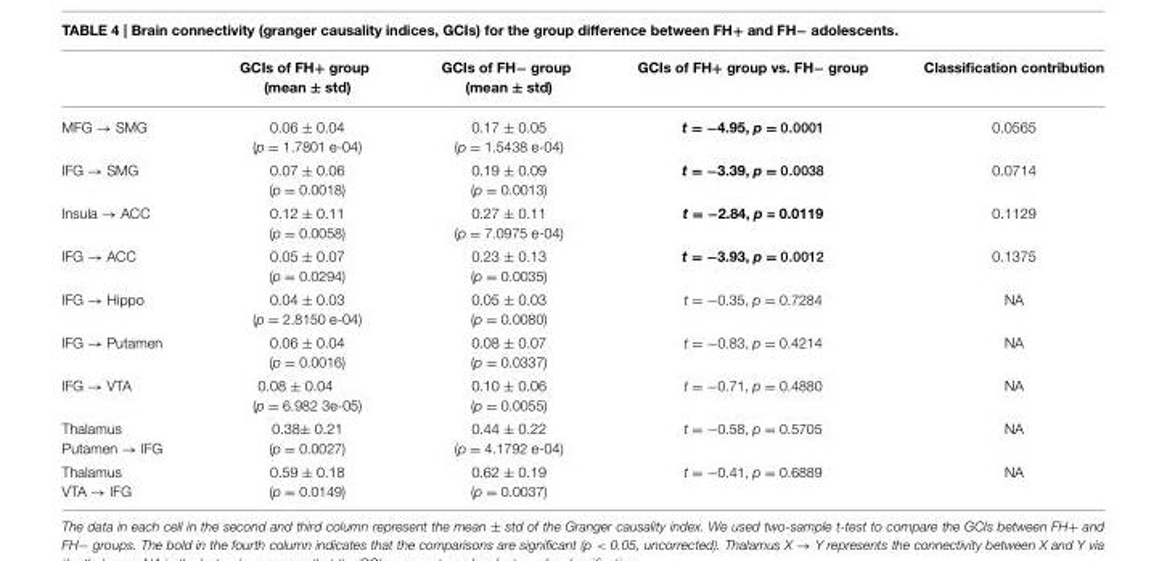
<table><thead><tr><td></td><td>GCIs of FH+ group (mean ± std)</td><td>GCIs of FH− group (mean ± std)</td><td>GCIs of FH+ group vs. FH− group</td><td>Classification contribution</td></tr></thead><tbody><tr><td>MFG → SMG</td><td>0.06 ± 0.04 (p = 1.7801 e-04)</td><td>0.17 ± 0.05 (p = 1.5438 e-04)</td><td>t = −4.95, p = 0.0001</td><td>0.0565</td></tr><tr><td>IFG → SMG</td><td>0.07 ± 0.06 (p = 0.0018)</td><td>0.19 ± 0.09 (p = 0.0013)</td><td>t = −3.39, p = 0.0038</td><td>0.0714</td></tr><tr><td>Insula → ACC</td><td>0.12 ± 0.11 (p = 0.0058)</td><td>0.27 ± 0.11 (p = 7.0975 e-04)</td><td>t = −2.84, p = 0.0119</td><td>0.1129</td></tr><tr><td>IFG → ACC</td><td>0.05 ± 0.07 (p = 0.0294)</td><td>0.23 ± 0.13 (p = 0.0035)</td><td>t = −3.93, p = 0.0012</td><td>0.1375</td></tr><tr><td>IFG → Hippo</td><td>0.04 ± 0.03 (p = 2.8150 e-04)</td><td>0.05 ± 0.03 (p = 0.0080)</td><td>t = −0.35, p = 0.7284</td><td>NA</td></tr><tr><td>IFG → Putamen</td><td>0.06 ± 0.04 (p = 0.0016)</td><td>0.08 ± 0.07 (p = 0.0337)</td><td>t = −0.83, p = 0.4214</td><td>NA</td></tr><tr><td>IFG → VTA</td><td>0.08 ± 0.04 (p = 6.982 3e-05)</td><td>0.10 ± 0.06 (p = 0.0055)</td><td>t = −0.71, p = 0.4880</td><td>NA</td></tr><tr><td>Thalamus Putamen → IFG</td><td>0.38± 0.21 (p = 0.0027)</td><td>0.44 ± 0.22 (p = 4.1792 e-04)</td><td>t = −0.58, p = 0.5705</td><td>NA</td></tr><tr><td>Thalamus VTA → IFG</td><td>0.59 ± 0.18 (p = 0.0149)</td><td>0.62 ± 0.19 (p = 0.0037)</td><td>t = −0.41, p = 0.6889</td><td>NA</td></tr></tbody></table>